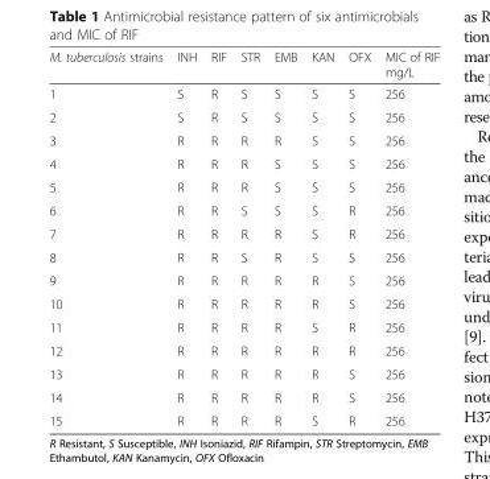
<table><thead><tr><td>M. tuberculosis strains</td><td>INH</td><td>RIF</td><td>STR</td><td>EMB</td><td>KAN</td><td>OFX</td><td>MIC of RIF mg/L</td></tr></thead><tbody><tr><td>1</td><td>S</td><td>R</td><td>S</td><td>S</td><td>S</td><td>S</td><td>256</td></tr><tr><td>2</td><td>S</td><td>R</td><td>S</td><td>S</td><td>S</td><td>S</td><td>256</td></tr><tr><td>3</td><td>R</td><td>R</td><td>R</td><td>R</td><td>S</td><td>S</td><td>256</td></tr><tr><td>4</td><td>R</td><td>R</td><td>R</td><td>S</td><td>S</td><td>S</td><td>256</td></tr><tr><td>5</td><td>R</td><td>R</td><td>R</td><td>S</td><td>S</td><td>S</td><td>256</td></tr><tr><td>6</td><td>R</td><td>R</td><td>S</td><td>S</td><td>S</td><td>R</td><td>256</td></tr><tr><td>7</td><td>R</td><td>R</td><td>R</td><td>R</td><td>S</td><td>R</td><td>256</td></tr><tr><td>8</td><td>R</td><td>R</td><td>S</td><td>R</td><td>S</td><td>S</td><td>256</td></tr><tr><td>9</td><td>R</td><td>R</td><td>R</td><td>R</td><td>R</td><td>S</td><td>256</td></tr><tr><td>10</td><td>R</td><td>R</td><td>R</td><td>R</td><td>R</td><td>S</td><td>256</td></tr><tr><td>11</td><td>R</td><td>R</td><td>R</td><td>R</td><td>S</td><td>R</td><td>256</td></tr><tr><td>12</td><td>R</td><td>R</td><td>R</td><td>R</td><td>R</td><td>R</td><td>256</td></tr><tr><td>13</td><td>R</td><td>R</td><td>R</td><td>R</td><td>R</td><td>S</td><td>256</td></tr><tr><td>14</td><td>R</td><td>R</td><td>R</td><td>R</td><td>R</td><td>S</td><td>256</td></tr><tr><td>15</td><td>R</td><td>R</td><td>R</td><td>R</td><td>S</td><td>R</td><td>256</td></tr></tbody></table>